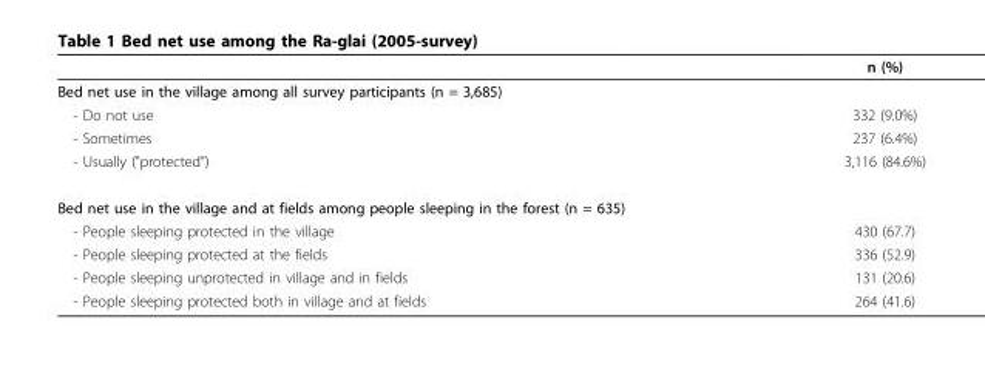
<table><thead><tr><td></td><td>n (%)</td></tr></thead><tbody><tr><td colspan="2">Bed net use in the village among all survey participants (n = 3,685)</td></tr><tr><td>- Do not use</td><td>332 (9.0%)</td></tr><tr><td>- Sometimes</td><td>237 (6.4%)</td></tr><tr><td>- Usually (&quot;protected”)</td><td>3,116 (84.6%)</td></tr><tr><td colspan="2">Bed net use in the village and at fields among people sleeping in the forest (n = 635)</td></tr><tr><td>- People sleeping protected in the village</td><td>430 (67.7)</td></tr><tr><td>- People sleeping protected at the fields</td><td>336 (52.9)</td></tr><tr><td>- People sleeping unprotected in village and in fields</td><td>131 (20.6)</td></tr><tr><td>- People sleeping protected both in village and at fields</td><td>264 (41.6)</td></tr></tbody></table>